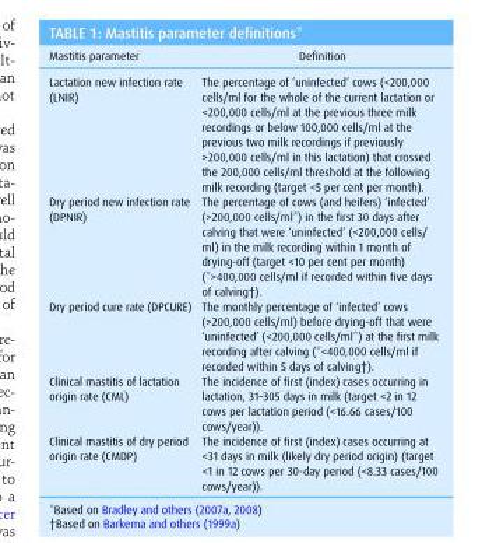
<table><thead><tr><td>Mastitis parameter</td><td>Definition</td></tr></thead><tbody><tr><td>Lactation new infection rate (LNIR)</td><td>The percentage of ‘uninfected’ cows (&lt;200,000 cells/ml for the whole of the current lactation or &lt;200,000 cells/ml at the previous three milk recordings or below 100,000 cells/ml at the previous two milk recordings if previously &gt;200,000 cells/ml in this lactation) that crossed the 200,000 cells/ml threshold at the following milk recording (target &lt;5 per cent per month).</td></tr><tr><td>Dry period new infection rate (DPNIR)</td><td>The percentage of cows (and heifers) ‘infected’ (&gt;200,000 cells/ml*) in the first 30 days after calving that were ‘uninfected’ (&lt;200,000 cells/ ml) in the milk recording within 1 month of drying-off (target &lt;10 per cent per month) (*&gt;400,000 cells/ml if recorded within five days of calving†).</td></tr><tr><td>Dry period cure rate (DPCURE)</td><td>The monthly percentage of ‘infected’ cows (&gt;200,000 cells/ml) before drying-off that were ‘uninfected’ (&lt;200,000 cells/ml*) at the first milk recording after calving (*&lt;400,000 cells/ml if recorded within 5 days of calving†).</td></tr><tr><td>Clinical mastitis of lactation origin rate (CML)</td><td>The incidence of first (index) cases occurring in lactation, 31–305 days in milk (target &lt;2 in 12 cows per lactation period (&lt;16.66 cases/100 cows/year)).</td></tr><tr><td>Clinical mastitis of dry period origin rate (CMDP)</td><td>The incidence of first (index) cases occurring at &lt;31 days in milk (likely dry period origin) (target &lt;1 in 12 cows per 30-day period (&lt;8.33 cases/100 cows/year)).</td></tr></tbody></table>